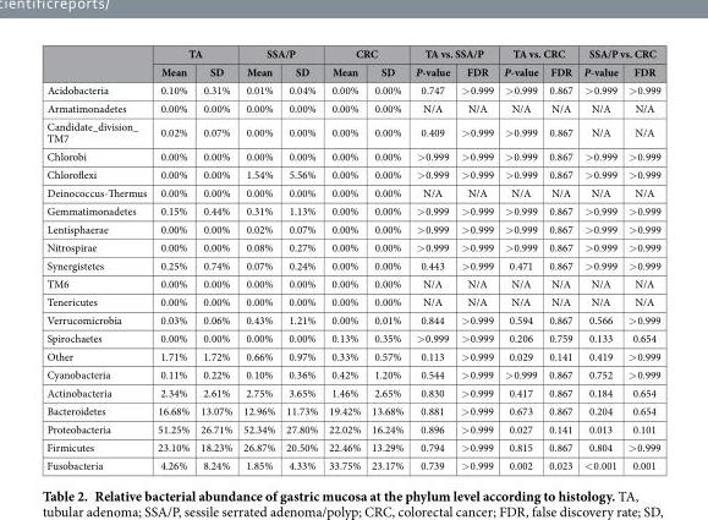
<table><thead><tr><td rowspan="2"></td><td colspan="2">TA</td><td colspan="2">SSA/P</td><td colspan="2">CRC</td><td colspan="2">TA vs. SSA/P</td><td colspan="2">TA vs. CRC</td><td colspan="2">SSA/P vs. CRC</td></tr><tr><td>Mean</td><td>SD</td><td>Mean</td><td>SD</td><td>Mean</td><td>SD</td><td>P-value</td><td>FDR</td><td>P-value</td><td>FDR</td><td>P-value</td><td>FDR</td></tr></thead><tbody><tr><td>Acidobacteria</td><td>0.10%</td><td>0.31%</td><td>0.01%</td><td>0.04%</td><td>0.00%</td><td>0.00%</td><td>0.747</td><td>&gt; 0.999</td><td>&gt; 0.999</td><td>0.867</td><td>&gt; 0.999</td><td>&gt; 0.999</td></tr><tr><td>Armatimonadetes</td><td>0.00%</td><td>0.00%</td><td>0.00%</td><td>0.00%</td><td>0.00%</td><td>0.00%</td><td>N/A</td><td>N/A</td><td>N/A</td><td>N/A</td><td>N/A</td><td>N/A</td></tr><tr><td>Candidate_division_ TM7</td><td>0.02%</td><td>0.07%</td><td>0.00%</td><td>0.00%</td><td>0.00%</td><td>0.00%</td><td>0.409</td><td>&gt; 0.999</td><td>&gt; 0.999</td><td>0.867</td><td>N/A</td><td>N/A</td></tr><tr><td>Chlorobi</td><td>0.00%</td><td>0.00%</td><td>0.00%</td><td>0.00%</td><td>0.00%</td><td>0.00%</td><td>&gt; 0.999</td><td>&gt; 0.999</td><td>&gt; 0.999</td><td>0.867</td><td>&gt; 0.999</td><td>&gt; 0.999</td></tr><tr><td>Chloroflexi</td><td>0.00%</td><td>0.00%</td><td>1.54%</td><td>5.56%</td><td>0.00%</td><td>0.00%</td><td>&gt; 0.999</td><td>&gt; 0.999</td><td>&gt; 0.999</td><td>0.867</td><td>&gt; 0.999</td><td>&gt; 0.999</td></tr><tr><td>Deinococcus-Thermus</td><td>0.00%</td><td>0.00%</td><td>0.00%</td><td>0.00%</td><td>0.00%</td><td>0.00%</td><td>N/A</td><td>N/A</td><td>N/A</td><td>N/A</td><td>N/A</td><td>N/A</td></tr><tr><td>Gemmatimonadetes</td><td>0.15%</td><td>0.44%</td><td>0.31%</td><td>1.13%</td><td>0.00%</td><td>0.00%</td><td>&gt; 0.999</td><td>&gt; 0.999</td><td>&gt; 0.999</td><td>0.867</td><td>&gt; 0.999</td><td>&gt; 0.999</td></tr><tr><td>Lentisphaerae</td><td>0.00%</td><td>0.00%</td><td>0.02%</td><td>0.07%</td><td>0.00%</td><td>0.00%</td><td>&gt; 0.999</td><td>&gt; 0.999</td><td>&gt; 0.999</td><td>0.867</td><td>&gt; 0.999</td><td>&gt; 0.999</td></tr><tr><td>Nitrospirae</td><td>0.00%</td><td>0.00%</td><td>0.08%</td><td>0.27%</td><td>0.00%</td><td>0.00%</td><td>&gt; 0.999</td><td>&gt; 0.999</td><td>&gt; 0.999</td><td>0.867</td><td>&gt; 0.999</td><td>&gt; 0.999</td></tr><tr><td>Synergistetes</td><td>0.25%</td><td>0.74%</td><td>0.07%</td><td>0.24%</td><td>0.00%</td><td>0.00%</td><td>0.443</td><td>&gt; 0.999</td><td>0.471</td><td>0.867</td><td>&gt; 0.999</td><td>&gt; 0.999</td></tr><tr><td>TM6</td><td>0.00%</td><td>0.00%</td><td>0.00%</td><td>0.00%</td><td>0.00%</td><td>0.00%</td><td>N/A</td><td>N/A</td><td>N/A</td><td>N/A</td><td>N/A</td><td>N/A</td></tr><tr><td>Tenericutes</td><td>0.00%</td><td>0.00%</td><td>0.00%</td><td>0.00%</td><td>0.00%</td><td>0.00%</td><td>N/A</td><td>N/A</td><td>N/A</td><td>N/A</td><td>N/A</td><td>N/A</td></tr><tr><td>Verrucomicrobia</td><td>0.03%</td><td>0.06%</td><td>0.43%</td><td>1.21%</td><td>0.00%</td><td>0.01%</td><td>0.844</td><td>&gt; 0.999</td><td>0.594</td><td>0.867</td><td>0.566</td><td>&gt; 0.999</td></tr><tr><td>Spirochaetes</td><td>0.00%</td><td>0.00%</td><td>0.00%</td><td>0.00%</td><td>0.13%</td><td>0.35%</td><td>&gt; 0.999</td><td>&gt; 0.999</td><td>0.206</td><td>0.759</td><td>0.133</td><td>0.654</td></tr><tr><td>Other</td><td>1.71%</td><td>1.72%</td><td>0.66%</td><td>0.97%</td><td>0.33%</td><td>0.57%</td><td>0.113</td><td>&gt; 0.999</td><td>0.029</td><td>0.141</td><td>0.419</td><td>&gt; 0.999</td></tr><tr><td>Cyanobacteria</td><td>0.11%</td><td>0.22%</td><td>0.10%</td><td>0.36%</td><td>0.42%</td><td>1.20%</td><td>0.544</td><td>&gt; 0.999</td><td>&gt; 0.999</td><td>0.867</td><td>0.752</td><td>&gt; 0.999</td></tr><tr><td>Actinobacteria</td><td>2.34%</td><td>2.61%</td><td>2.75%</td><td>3.65%</td><td>1.46%</td><td>2.65%</td><td>0.830</td><td>&gt; 0.999</td><td>0.417</td><td>0.867</td><td>0.184</td><td>0.654</td></tr><tr><td>Bacteroidetes</td><td>16.68%</td><td>13.07%</td><td>12.96%</td><td>11.73%</td><td>19.42%</td><td>13.68%</td><td>0.881</td><td>&gt; 0.999</td><td>0.673</td><td>0.867</td><td>0.204</td><td>0.654</td></tr><tr><td>Proteobacteria</td><td>51.25%</td><td>26.71%</td><td>52.34%</td><td>27.80%</td><td>22.02%</td><td>16.24%</td><td>0.896</td><td>&gt; 0.999</td><td>0.027</td><td>0.141</td><td>0.013</td><td>0.101</td></tr><tr><td>Firmicutes</td><td>23.10%</td><td>18.23%</td><td>26.87%</td><td>20.50%</td><td>22.46%</td><td>13.29%</td><td>0.794</td><td>&gt; 0.999</td><td>0.815</td><td>0.867</td><td>0.804</td><td>&gt; 0.999</td></tr><tr><td>Fusobacteria</td><td>4.26%</td><td>8.24%</td><td>1.85%</td><td>4.33%</td><td>33.75%</td><td>23.17%</td><td>0.739</td><td>&gt; 0.999</td><td>0.002</td><td>0.023</td><td>&lt; 0.001</td><td>0.001</td></tr></tbody></table>